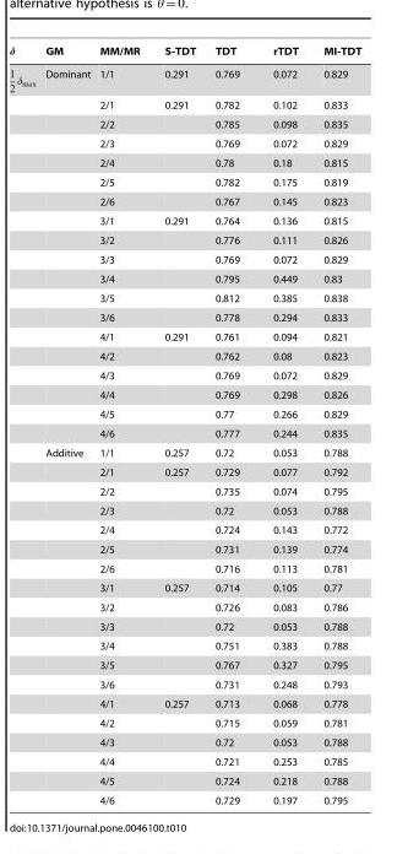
<table><thead><tr><td>GM</td><td>MM/MR</td><td>S-TDT</td><td>TDT</td><td>rTDT</td><td>MI-TDT</td></tr></thead><tbody><tr><td rowspan="19">Dominant</td><td>1/1</td><td>0.291</td><td>0.769</td><td>0.072</td><td>0.829</td></tr><tr><td>2/1</td><td>0.291</td><td>0.782</td><td>0.102</td><td>0.833</td></tr><tr><td>2/2</td><td></td><td>0.785</td><td>0.098</td><td>0.835</td></tr><tr><td>2/3</td><td></td><td>0.769</td><td>0.072</td><td>0.829</td></tr><tr><td>2/4</td><td></td><td>0.78</td><td>0.18</td><td>0.815</td></tr><tr><td>2/5</td><td></td><td>0.782</td><td>0.175</td><td>0.819</td></tr><tr><td>2/6</td><td></td><td>0.767</td><td>0.145</td><td>0.823</td></tr><tr><td>3/1</td><td>0.291</td><td>0.764</td><td>0.136</td><td>0.815</td></tr><tr><td>3/2</td><td></td><td>0.776</td><td>0.111</td><td>0.826</td></tr><tr><td>3/3</td><td></td><td>0.769</td><td>0.072</td><td>0.829</td></tr><tr><td>3/4</td><td></td><td>0.795</td><td>0.449</td><td>0.83</td></tr><tr><td>3/5</td><td></td><td>0.812</td><td>0.385</td><td>0.838</td></tr><tr><td>3/6</td><td></td><td>0.778</td><td>0.294</td><td>0.833</td></tr><tr><td>4/1</td><td>0.291</td><td>0.761</td><td>0.094</td><td>0.821</td></tr><tr><td>4/2</td><td></td><td>0.762</td><td>0.08</td><td>0.823</td></tr><tr><td>4/3</td><td></td><td>0.769</td><td>0.072</td><td>0.829</td></tr><tr><td>4/4</td><td></td><td>0.769</td><td>0.298</td><td>0.826</td></tr><tr><td>4/5</td><td></td><td>0.77</td><td>0.266</td><td>0.829</td></tr><tr><td>4/6</td><td></td><td>0.777</td><td>0.244</td><td>0.835</td></tr><tr><td rowspan="19">Additive</td><td>1/1</td><td>0.257</td><td>0.72</td><td>0.053</td><td>0.788</td></tr><tr><td>2/1</td><td>0.257</td><td>0.729</td><td>0.077</td><td>0.792</td></tr><tr><td>2/2</td><td></td><td>0.735</td><td>0.074</td><td>0.795</td></tr><tr><td>2/3</td><td></td><td>0.72</td><td>0.053</td><td>0.788</td></tr><tr><td>2/4</td><td></td><td>0.724</td><td>0.143</td><td>0.772</td></tr><tr><td>2/5</td><td></td><td>0.731</td><td>0.139</td><td>0.774</td></tr><tr><td>2/6</td><td></td><td>0.716</td><td>0.113</td><td>0.781</td></tr><tr><td>3/1</td><td>0.257</td><td>0.714</td><td>0.105</td><td>0.77</td></tr><tr><td>3/2</td><td></td><td>0.726</td><td>0.083</td><td>0.786</td></tr><tr><td>3/3</td><td></td><td>0.72</td><td>0.053</td><td>0.788</td></tr><tr><td>3/4</td><td></td><td>0.751</td><td>0.383</td><td>0.788</td></tr><tr><td>3/5</td><td></td><td>0.767</td><td>0.327</td><td>0.795</td></tr><tr><td>3/6</td><td></td><td>0.731</td><td>0.248</td><td>0.793</td></tr><tr><td>4/1</td><td>0.257</td><td>0.713</td><td>0.068</td><td>0.778</td></tr><tr><td>4/2</td><td></td><td>0.715</td><td>0.059</td><td>0.781</td></tr><tr><td>4/3</td><td></td><td>0.72</td><td>0.053</td><td>0.788</td></tr><tr><td>4/4</td><td></td><td>0.721</td><td>0.253</td><td>0.785</td></tr><tr><td>4/5</td><td></td><td>0.724</td><td>0.218</td><td>0.788</td></tr><tr><td>4/6</td><td></td><td>0.729</td><td>0.197</td><td>0.795</td></tr></tbody></table>